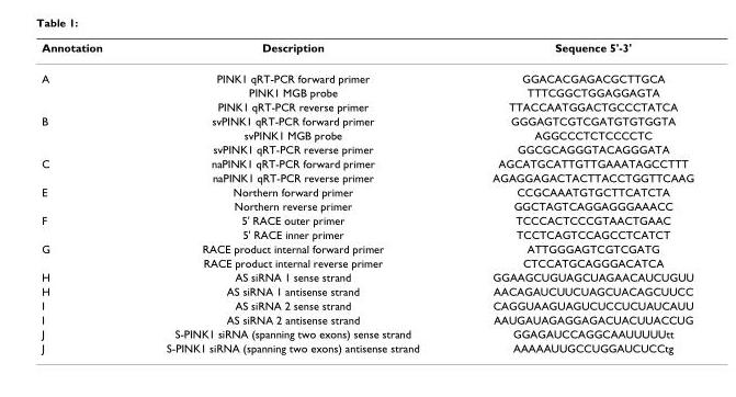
<table><thead><tr><td>Annotation</td><td>Description</td><td>Sequence 5&#x27;-3&#x27;</td></tr></thead><tbody><tr><td rowspan="3">A</td><td>PINK1 qRT-PCR forward primer</td><td>GGACACGAGACGCTTGCA</td></tr><tr><td>PINK1 MGB probe</td><td>TTTCGGCTGGAGGAGTA</td></tr><tr><td>PINK1 qRT-PCR reverse primer</td><td>TTACCAATGGACTGCCCTATCA</td></tr><tr><td rowspan="3">B</td><td>svPINK1 qRT-PCR forward primer</td><td>GGGAGTCGTCGATGTGTGGTA</td></tr><tr><td>svPINK1 MGB probe</td><td>AGGCCCTCTCCCCTC</td></tr><tr><td>svPINK1 qRT-PCR reverse primer</td><td>GGCGCAGGGTACAGGGATA</td></tr><tr><td rowspan="2">C</td><td>naPINK1 qRT-PCR forward primer</td><td>AGCATGCATTGTTGAAATAGCCTTT</td></tr><tr><td>naPINK1 qRT-PCR reverse primer</td><td>AGAGGAGACTACTTACCTGGTTCAAG</td></tr><tr><td rowspan="2">E</td><td>Northern forward primer</td><td>CCGCAAATGTGCTTCATCTA</td></tr><tr><td>Northern reverse primer</td><td>GGCTAGTCAGGAGGGAAACC</td></tr><tr><td rowspan="2">F</td><td>5&#x27; RACE outer primer</td><td>TCCCACTCCCGTAACTGAAC</td></tr><tr><td>5&#x27; RACE inner primer</td><td>TCCTCAGTCCAGCCTCATCT</td></tr><tr><td rowspan="2">G</td><td>RACE product internal forward primer</td><td>ATTGGGAGTCGTCGATG</td></tr><tr><td>RACE product internal reverse primer</td><td>CTCCATGCAGGGACATCA</td></tr><tr><td>H</td><td>AS siRNA 1 sense strand</td><td>GGAAGCUGUAGCUAGAACAUCUGUU</td></tr><tr><td>H</td><td>AS siRNA 1 antisense strand</td><td>AACAGAUCUUCUAGCUACAGCUUCC</td></tr><tr><td>I</td><td>AS siRNA 2 sense strand</td><td>CAGGUAAGUAGUCUCCUCUAUCAUU</td></tr><tr><td>I</td><td>AS siRNA 2 antisense strand</td><td>AAUGAUAGAGGAGACUACUUACCUG</td></tr><tr><td>J</td><td>S-PINK1 siRNA (spanning two exons) sense strand</td><td>GGAGAUCCAGGCAAUUUUUtt</td></tr><tr><td>J</td><td>S-PINK1 siRNA (spanning two exons) antisense strand</td><td>AAAAAUUGCCUGGAUCUCCtg</td></tr></tbody></table>